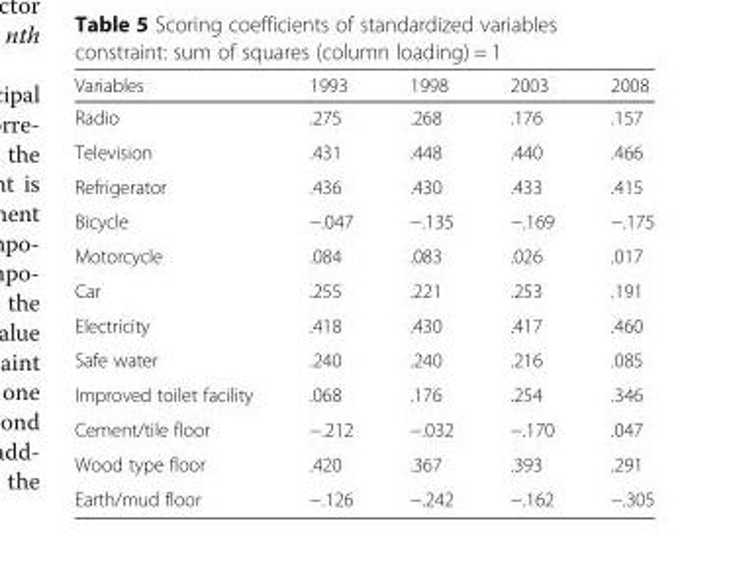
<table><thead><tr><td>Variables</td><td>1993</td><td>1998</td><td>2003</td><td>2008</td></tr></thead><tbody><tr><td>Radio</td><td>.275</td><td>.268</td><td>.176</td><td>.157</td></tr><tr><td>Television</td><td>.431</td><td>.448</td><td>.440</td><td>.466</td></tr><tr><td>Refrigerator</td><td>.436</td><td>.430</td><td>.433</td><td>.415</td></tr><tr><td>Bicycle</td><td>−.047</td><td>−.135</td><td>−.169</td><td>−.175</td></tr><tr><td>Motorcycle</td><td>.084</td><td>.083</td><td>.026</td><td>.017</td></tr><tr><td>Car</td><td>.255</td><td>.221</td><td>.253</td><td>.191</td></tr><tr><td>Electricity</td><td>.418</td><td>.430</td><td>.417</td><td>.460</td></tr><tr><td>Safe water</td><td>.240</td><td>.240</td><td>.216</td><td>.085</td></tr><tr><td>Improved toilet facility</td><td>.068</td><td>.176</td><td>.254</td><td>.346</td></tr><tr><td>Cement/tile floor</td><td>−.212</td><td>−.032</td><td>−.170</td><td>.047</td></tr><tr><td>Wood type floor</td><td>.420</td><td>.367</td><td>.393</td><td>.291</td></tr><tr><td>Earth/mud floor</td><td>−.126</td><td>−.242</td><td>−.162</td><td>−.305</td></tr></tbody></table>